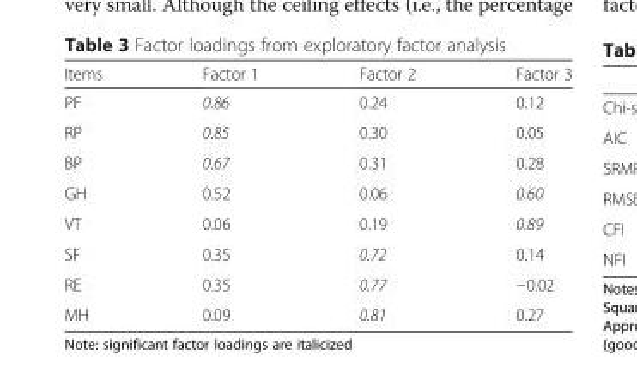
<table><thead><tr><td>Items</td><td>Factor 1</td><td>Factor 2</td><td>Factor 3</td></tr></thead><tbody><tr><td>PF</td><td>0.86</td><td>0.24</td><td>0.12</td></tr><tr><td>RP</td><td>0.85</td><td>0.30</td><td>0.05</td></tr><tr><td>BP</td><td>0.67</td><td>0.31</td><td>0.28</td></tr><tr><td>GH</td><td>0.52</td><td>0.06</td><td>0.60</td></tr><tr><td>VT</td><td>0.06</td><td>0.19</td><td>0.89</td></tr><tr><td>SF</td><td>0.35</td><td>0.72</td><td>0.14</td></tr><tr><td>RE</td><td>0.35</td><td>0.77</td><td>−0.02</td></tr><tr><td>MH</td><td>0.09</td><td>0.81</td><td>0.27</td></tr></tbody></table>